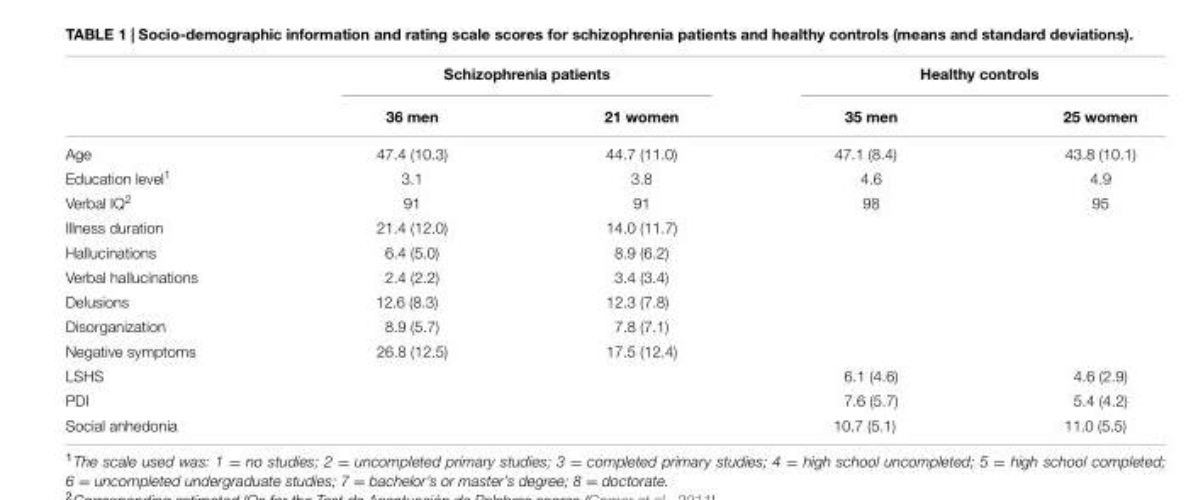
<table><thead><tr><td rowspan="2"></td><td colspan="2">Schizophrenia patients</td><td colspan="2">Healthy controls</td></tr><tr><td>36 men</td><td>21 women</td><td>35 men</td><td>25 women</td></tr></thead><tbody><tr><td>Age</td><td>47.4 (10.3)</td><td>44.7 (11.0)</td><td>47.1 (8.4)</td><td>43.8 (10.1)</td></tr><tr><td>Education level<sup>1</sup></td><td>3.1</td><td>3.8</td><td>4.6</td><td>4.9</td></tr><tr><td>Verbal IQ<sup>2</sup></td><td>91</td><td>91</td><td>98</td><td>95</td></tr><tr><td>Illness duration</td><td>21.4 (12.0)</td><td>14.0 (11.7)</td><td></td><td></td></tr><tr><td>Hallucinations</td><td>6.4 (5.0)</td><td>8.9 (6.2)</td><td></td><td></td></tr><tr><td>Verbal hallucinations</td><td>2.4 (2.2)</td><td>3.4 (3.4)</td><td></td><td></td></tr><tr><td>Delusions</td><td>12.6 (8.3)</td><td>12.3 (7.8)</td><td></td><td></td></tr><tr><td>Disorganization</td><td>8.9 (5.7)</td><td>7.8 (7.1)</td><td></td><td></td></tr><tr><td>Negative symptoms</td><td>26.8 (12.5)</td><td>17.5 (12.4)</td><td></td><td></td></tr><tr><td>LSHS</td><td></td><td></td><td>6.1 (4.6)</td><td>4.6 (2.9)</td></tr><tr><td>PDI</td><td></td><td></td><td>7.6 (5.7)</td><td>5.4 (4.2)</td></tr><tr><td>Social anhedonia</td><td></td><td></td><td>10.7 (5.1)</td><td>11.0 (5.5)</td></tr></tbody></table>